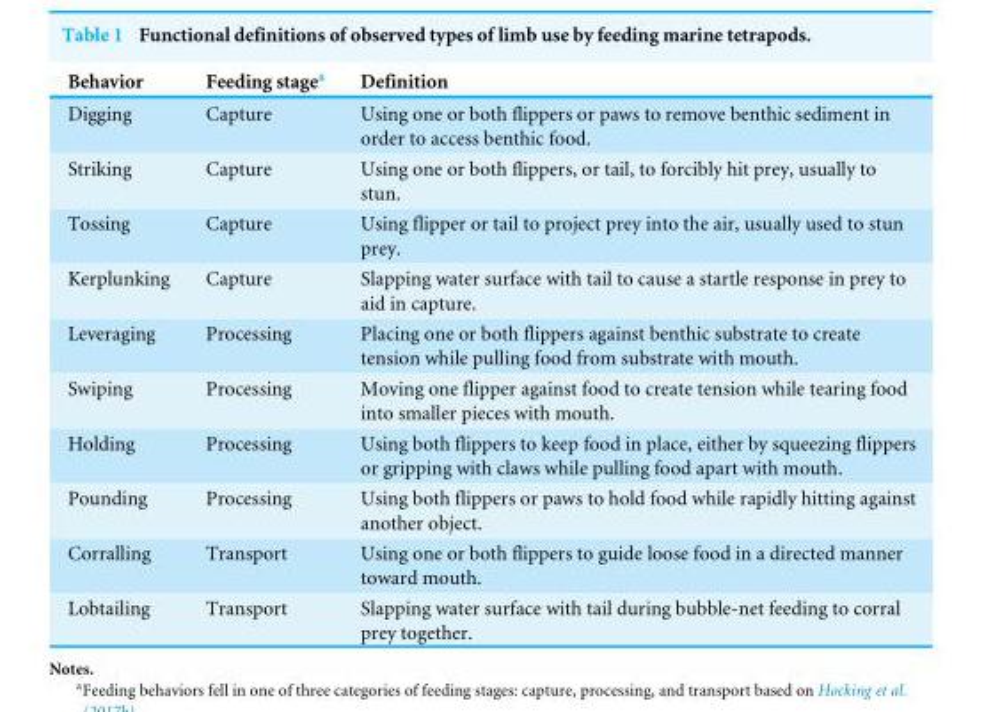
<table><thead><tr><td>Behavior</td><td>Feeding stage<sup>a</sup></td><td>Definition</td></tr></thead><tbody><tr><td>Digging</td><td>Capture</td><td>Using one or both flippers or paws to remove benthic sediment in order to access benthic food.</td></tr><tr><td>Striking</td><td>Capture</td><td>Using one or both flippers, or tail, to forcibly hit prey, usually to stun.</td></tr><tr><td>Tossing</td><td>Capture</td><td>Using flipper or tail to project prey into the air, usually used to stun prey.</td></tr><tr><td>Kerplunking</td><td>Capture</td><td>Slapping water surface with tail to cause a startle response in prey to aid in capture.</td></tr><tr><td>Leveraging</td><td>Processing</td><td>Placing one or both flippers against benthic substrate to create tension while pulling food from substrate with mouth.</td></tr><tr><td>Swiping</td><td>Processing</td><td>Moving one flipper against food to create tension while tearing food into smaller pieces with mouth.</td></tr><tr><td>Holding</td><td>Processing</td><td>Using both flippers to keep food in place, either by squeezing flippers or gripping with claws while pulling food apart with mouth.</td></tr><tr><td>Pounding</td><td>Processing</td><td>Using both flippers or paws to hold food while rapidly hitting against another object.</td></tr><tr><td>Corralling</td><td>Transport</td><td>Using one or both flippers to guide loose food in a directed manner toward mouth.</td></tr><tr><td>Lobtailing</td><td>Transport</td><td>Slapping water surface with tail during bubble-net feeding to corral prey together.</td></tr></tbody></table>